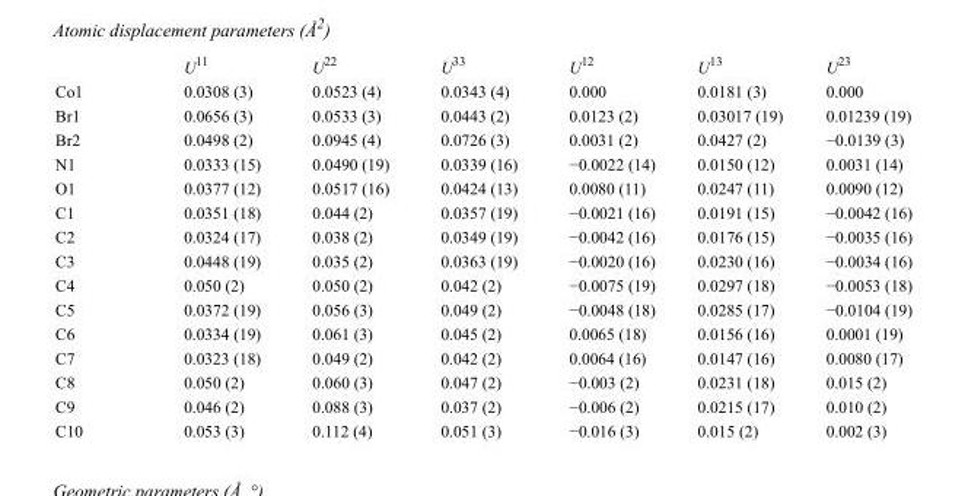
<table><thead><tr><td></td><td>U<sup>11</sup></td><td>U<sup>22</sup></td><td>U<sup>33</sup></td><td>U<sup>12</sup></td><td>U<sup>13</sup></td><td>U<sup>23</sup></td></tr></thead><tbody><tr><td>Co1</td><td>0.0308 (3)</td><td>0.0523 (4)</td><td>0.0343 (4)</td><td>0.000</td><td>0.0181 (3)</td><td>0.000</td></tr><tr><td>Br1</td><td>0.0656 (3)</td><td>0.0533 (3)</td><td>0.0443 (2)</td><td>0.0123 (2)</td><td>0.03017 (19)</td><td>0.01239 (19)</td></tr><tr><td>Br2</td><td>0.0498 (2)</td><td>0.0945 (4)</td><td>0.0726 (3)</td><td>0.0031 (2)</td><td>0.0427 (2)</td><td>−0.0139 (3)</td></tr><tr><td>N1</td><td>0.0333 (15)</td><td>0.0490 (19)</td><td>0.0339 (16)</td><td>−0.0022 (14)</td><td>0.0150 (12)</td><td>0.0031 (14)</td></tr><tr><td>O1</td><td>0.0377 (12)</td><td>0.0517 (16)</td><td>0.0424 (13)</td><td>0.0080 (11)</td><td>0.0247 (11)</td><td>0.0090 (12)</td></tr><tr><td>C1</td><td>0.0351 (18)</td><td>0.044 (2)</td><td>0.0357 (19)</td><td>−0.0021 (16)</td><td>0.0191 (15)</td><td>−0.0042 (16)</td></tr><tr><td>C2</td><td>0.0324 (17)</td><td>0.038 (2)</td><td>0.0349 (19)</td><td>−0.0042 (16)</td><td>0.0176 (15)</td><td>−0.0035 (16)</td></tr><tr><td>C3</td><td>0.0448 (19)</td><td>0.035 (2)</td><td>0.0363 (19)</td><td>−0.0020 (16)</td><td>0.0230 (16)</td><td>−0.0034 (16)</td></tr><tr><td>C4</td><td>0.050 (2)</td><td>0.050 (2)</td><td>0.042 (2)</td><td>−0.0075 (19)</td><td>0.0297 (18)</td><td>−0.0053 (18)</td></tr><tr><td>C5</td><td>0.0372 (19)</td><td>0.056 (3)</td><td>0.049 (2)</td><td>−0.0048 (18)</td><td>0.0285 (17)</td><td>−0.0104 (19)</td></tr><tr><td>C6</td><td>0.0334 (19)</td><td>0.061 (3)</td><td>0.045 (2)</td><td>0.0065 (18)</td><td>0.0156 (16)</td><td>0.0001 (19)</td></tr><tr><td>C7</td><td>0.0323 (18)</td><td>0.049 (2)</td><td>0.042 (2)</td><td>0.0064 (16)</td><td>0.0147 (16)</td><td>0.0080 (17)</td></tr><tr><td>C8</td><td>0.050 (2)</td><td>0.060 (3)</td><td>0.047 (2)</td><td>−0.003 (2)</td><td>0.0231 (18)</td><td>0.015 (2)</td></tr><tr><td>C9</td><td>0.046 (2)</td><td>0.088 (3)</td><td>0.037 (2)</td><td>−0.006 (2)</td><td>0.0215 (17)</td><td>0.010 (2)</td></tr><tr><td>C10</td><td>0.053 (3)</td><td>0.112 (4)</td><td>0.051 (3)</td><td>−0.016 (3)</td><td>0.015 (2)</td><td>0.002 (3)</td></tr></tbody></table>